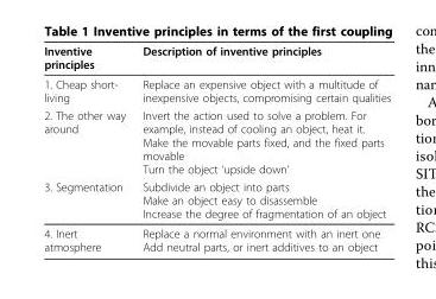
<table><thead><tr><td>Inventive principles</td><td>Description of inventive principles</td></tr></thead><tbody><tr><td>1. Cheap short- living</td><td>Replace an expensive object with a multitude of inexpensive objects, compromising certain qualities</td></tr><tr><td>2. The other way around</td><td>Invert the action used to solve a problem. For example, instead of cooling an object, heat it. Make the movable parts fixed, and the fixed parts movable Turn the object ‘upside down’</td></tr><tr><td>3. Segmentation</td><td>Subdivide an object into parts Make an object easy to disassemble Increase the degree of fragmentation of an object</td></tr><tr><td>4. Inert atmosphere</td><td>Replace a normal environment with an inert one Add neutral parts, or inert additives to an object</td></tr></tbody></table>